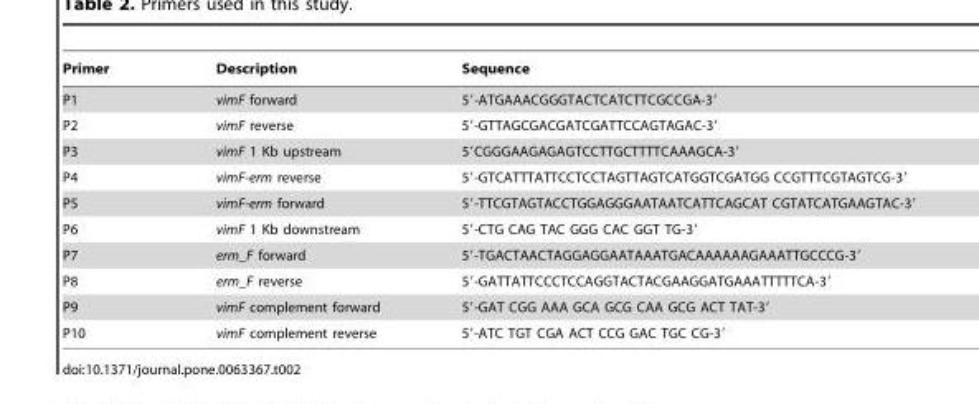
<table><thead><tr><td>Primer</td><td>Description</td><td>Sequence</td></tr></thead><tbody><tr><td>P1</td><td>vimF forward</td><td>5′-ATGAAACGGGTACTCATCTTCGCCGA-3′</td></tr><tr><td>P2</td><td>vimF reverse</td><td>5′-GTTAGCGACGATCGATTCCAGTAGAC-3′</td></tr><tr><td>P3</td><td>vimF 1 Kb upstream</td><td>5′CGGGAAGAGAGTCCTTGCTTTTCAAAGCA-3′</td></tr><tr><td>P4</td><td>vimF-erm reverse</td><td>5′-GTCATTTATTCCTCCTAGTTAGTCATGGTCGATGG CCGTTTCGTAGTCG-3′</td></tr><tr><td>P5</td><td>vimF-erm forward</td><td>5′-TTCGTAGTACCTGGAGGGAATAATCATTCAGCAT CGTATCATGAAGTAC-3′</td></tr><tr><td>P6</td><td>vimF 1 Kb downstream</td><td>5′-CTG CAG TAC GGG CAC GGT TG-3′</td></tr><tr><td>P7</td><td>erm_F forward</td><td>5′-TGACTAACTAGGAGGAATAAATGACAAAAAAGAAATTGCCCG-3′</td></tr><tr><td>P8</td><td>erm_F reverse</td><td>5′-GATTATTCCCTCCAGGTACTACGAAGGATGAAATTTTTCA-3′</td></tr><tr><td>P9</td><td>vimF complement forward</td><td>5′-GAT CGG AAA GCA GCG CAA GCG ACT TAT-3′</td></tr><tr><td>P10</td><td>vimF complement reverse</td><td>5′-ATC TGT CGA ACT CCG GAC TGC CG-3′</td></tr></tbody></table>